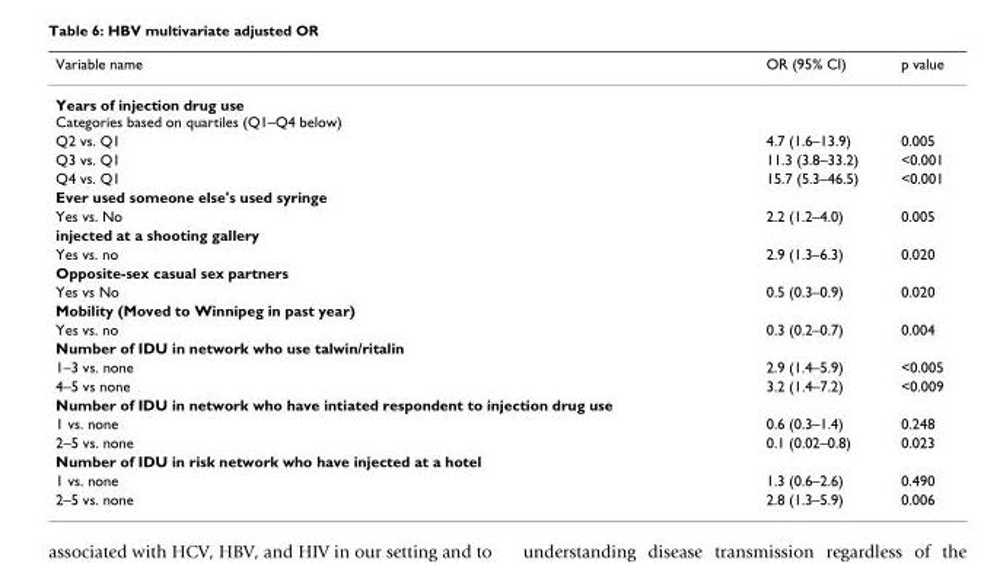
<table><thead><tr><td>Variable name</td><td>OR (95% CI)</td><td>p value</td></tr></thead><tbody><tr><td colspan="3">Years of injection drug use Categories based on quartiles (Q1–Q4 below)</td></tr><tr><td>Q2 vs. Q1</td><td>4.7 (1.6–13.9)</td><td>0.005</td></tr><tr><td>Q3 vs. Q1</td><td>11.3 (3.8–33.2)</td><td>&lt;0.001</td></tr><tr><td>Q4 vs. Q1</td><td>15.7 (5.3–46.5)</td><td>&lt;0.001</td></tr><tr><td colspan="3">Ever used someone else&#x27;s used syringe</td></tr><tr><td>Yes vs. No</td><td>2.2 (1.2–4.0)</td><td>0.005</td></tr><tr><td colspan="3">injected at a shooting gallery</td></tr><tr><td>Yes vs. no</td><td>2.9 (1.3–6.3)</td><td>0.020</td></tr><tr><td colspan="3">Opposite-sex casual sex partners</td></tr><tr><td>Yes vs No</td><td>0.5 (0.3–0.9)</td><td>0.020</td></tr><tr><td colspan="3">Mobility (Moved to Winnipeg in past year)</td></tr><tr><td>Yes vs. no</td><td>0.3 (0.2–0.7)</td><td>0.004</td></tr><tr><td colspan="3">Number of IDU in network who use talwin/ritalin</td></tr><tr><td>1–3 vs. none</td><td>2.9 (1.4–5.9)</td><td>&lt;0.005</td></tr><tr><td>4–5 vs none</td><td>3.2 (1.4–7.2)</td><td>&lt;0.009</td></tr><tr><td colspan="3">Number of IDU in network who have intiated respondent to injection drug use</td></tr><tr><td>1 vs. none</td><td>0.6 (0.3–1.4)</td><td>0.248</td></tr><tr><td>2–5 vs. none</td><td>0.1 (0.02–0.8)</td><td>0.023</td></tr><tr><td colspan="3">Number of IDU in risk network who have injected at a hotel</td></tr><tr><td>1 vs. none</td><td>1.3 (0.6–2.6)</td><td>0.490</td></tr><tr><td>2–5 vs. none</td><td>2.8 (1.3–5.9)</td><td>0.006</td></tr></tbody></table>